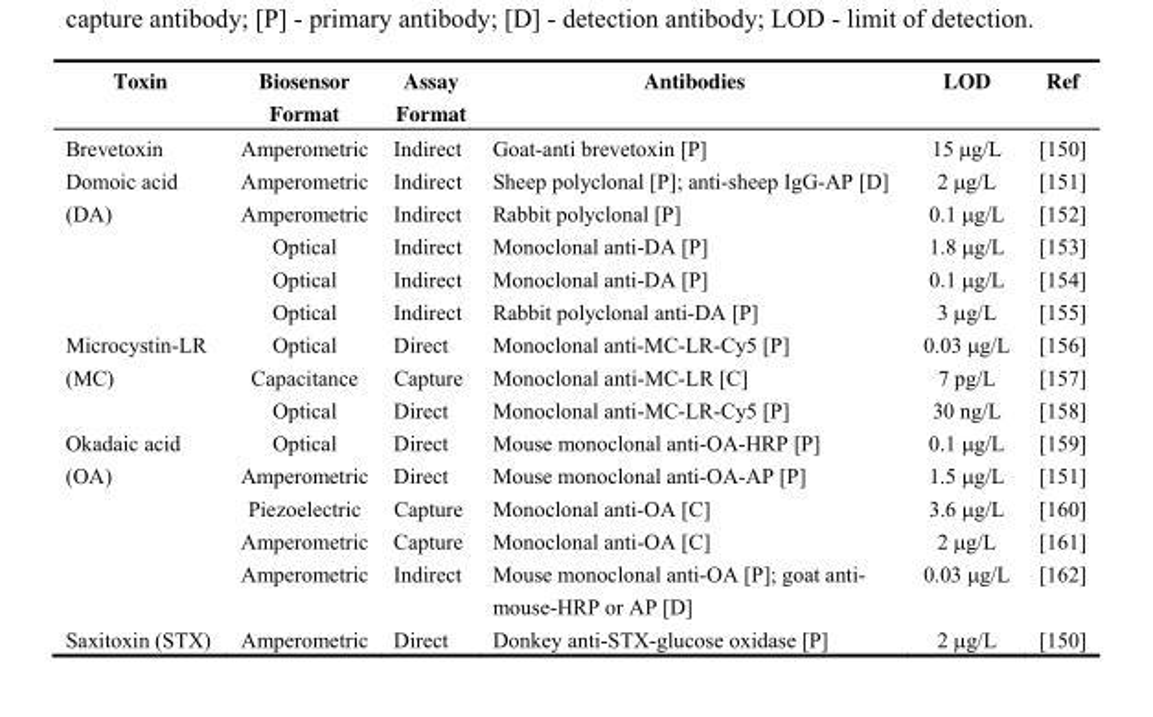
<table><thead><tr><td>Toxin</td><td>Biosensor Format</td><td>Assay Format</td><td>Antibodies</td><td>LOD</td><td>Ref</td></tr></thead><tbody><tr><td>Brevetoxin</td><td>Amperometric</td><td>Indirect</td><td>Goat-anti brevetoxin [P]</td><td>15 μg/L</td><td>[150]</td></tr><tr><td rowspan="5">Domoic acid (DA)</td><td>Amperometric</td><td>Indirect</td><td>Sheep polyclonal [P]; anti-sheep IgG-AP [D]</td><td>2 μg/L</td><td>[151]</td></tr><tr><td>Amperometric</td><td>Indirect</td><td>Rabbit polyclonal [P]</td><td>0.1 μg/L</td><td>[152]</td></tr><tr><td>Optical</td><td>Indirect</td><td>Monoclonal anti-DA [P]</td><td>1.8 μg/L</td><td>[153]</td></tr><tr><td>Optical</td><td>Indirect</td><td>Monoclonal anti-DA [P]</td><td>0.1 μg/L</td><td>[154]</td></tr><tr><td>Optical</td><td>Indirect</td><td>Rabbit polyclonal anti-DA [P]</td><td>3 μg/L</td><td>[155]</td></tr><tr><td rowspan="3">Microcystin-LR (MC)</td><td>Optical</td><td>Direct</td><td>Monoclonal anti-MC-LR-Cy5 [P]</td><td>0.03 μg/L</td><td>[156]</td></tr><tr><td>Capacitance</td><td>Capture</td><td>Monoclonal anti-MC-LR [C]</td><td>7 pg/L</td><td>[157]</td></tr><tr><td>Optical</td><td>Direct</td><td>Monoclonal anti-MC-LR-Cy5 [P]</td><td>30 ng/L</td><td>[158]</td></tr><tr><td rowspan="5">Okadaic acid (OA)</td><td>Optical</td><td>Direct</td><td>Mouse monoclonal anti-OA-HRP [P]</td><td>0.1 μg/L</td><td>[159]</td></tr><tr><td>Amperometric</td><td>Direct</td><td>Mouse monoclonal anti-OA-AP [P]</td><td>1.5 μg/L</td><td>[151]</td></tr><tr><td>Piezoelectric</td><td>Capture</td><td>Monoclonal anti-OA [C]</td><td>3.6 μg/L</td><td>[160]</td></tr><tr><td>Amperometric</td><td>Capture</td><td>Monoclonal anti-OA [C]</td><td>2 μg/L</td><td>[161]</td></tr><tr><td>Amperometric</td><td>Indirect</td><td>Mouse monoclonal anti-OA [P]; goat anti- mouse-HRP or AP [D]</td><td>0.03 μg/L</td><td>[162]</td></tr><tr><td>Saxitoxin (STX)</td><td>Amperometric</td><td>Direct</td><td>Donkey anti-STX-glucose oxidase [P]</td><td>2 μg/L</td><td>[150]</td></tr></tbody></table>